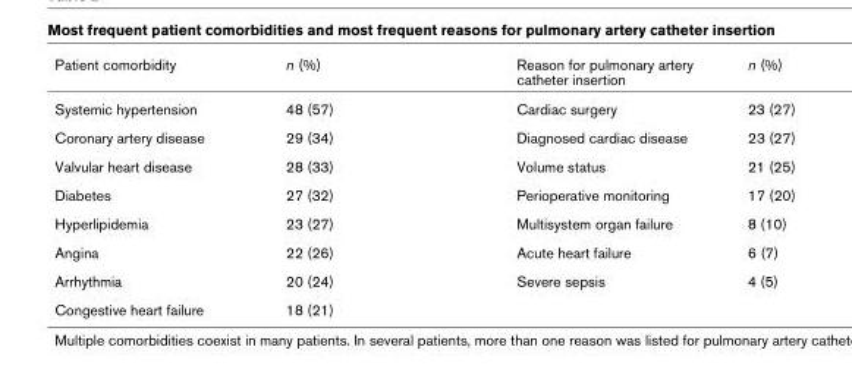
<table><thead><tr><td>Patient comorbidity</td><td>n (%)</td><td>Reason for pulmonary artery catheter insertion</td><td>n (%)</td></tr></thead><tbody><tr><td>Systemic hypertension</td><td>48 (57)</td><td>Cardiac surgery</td><td>23 (27)</td></tr><tr><td>Coronary artery disease</td><td>29 (34)</td><td>Diagnosed cardiac disease</td><td>23 (27)</td></tr><tr><td>Valvular heart disease</td><td>28 (33)</td><td>Volume status</td><td>21 (25)</td></tr><tr><td>Diabetes</td><td>27 (32)</td><td>Perioperative monitoring</td><td>17 (20)</td></tr><tr><td>Hyperlipidemia</td><td>23 (27)</td><td>Multisystem organ failure</td><td>8 (10)</td></tr><tr><td>Angina</td><td>22 (26)</td><td>Acute heart failure</td><td>6 (7)</td></tr><tr><td>Arrhythmia</td><td>20 (24)</td><td>Severe sepsis</td><td>4 (5)</td></tr><tr><td>Congestive heart failure</td><td>18 (21)</td><td></td><td></td></tr></tbody></table>